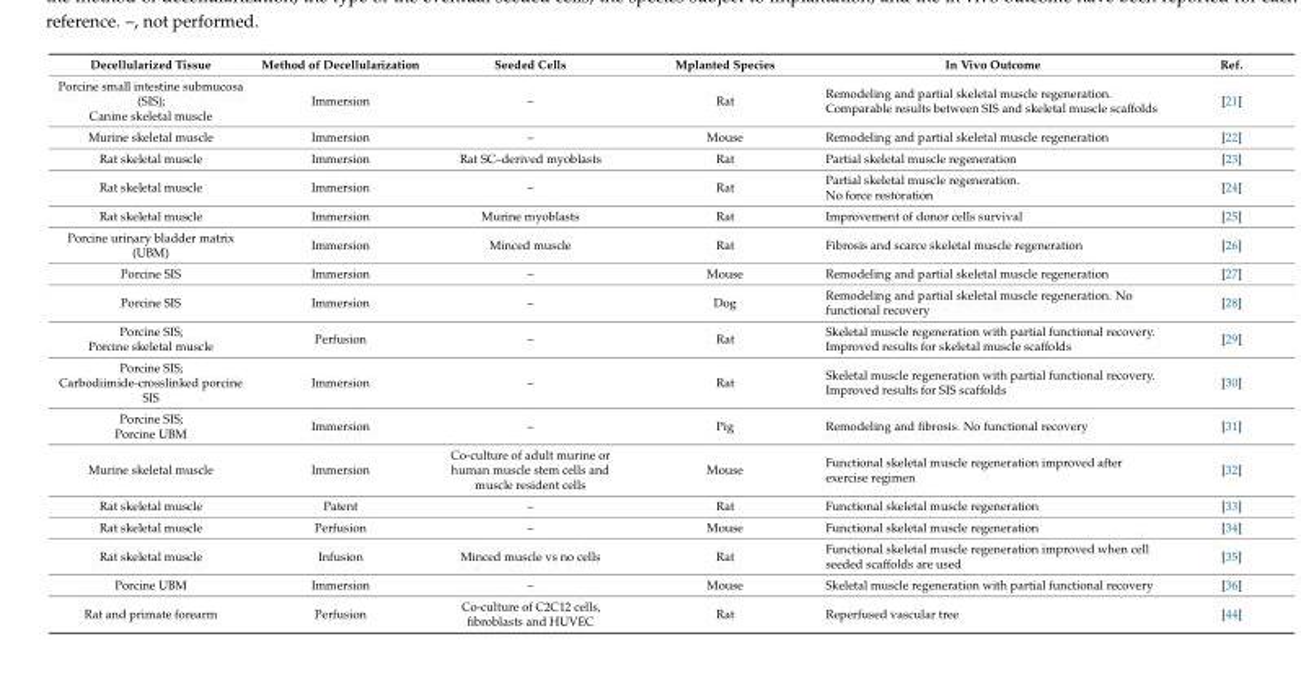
<table><thead><tr><td>Decellularized Tissue</td><td>Method of Decellularization</td><td>Seeded Cells</td><td>Mplanted Species</td><td>In Vivo Outcome</td><td>Ref.</td></tr></thead><tbody><tr><td>Porcine small intestine submucosa (SIS); Canine skeletal muscle</td><td>Immersion</td><td>–</td><td>Rat</td><td>Remodeling and partial skeletal muscle regeneration. Comparable results between SIS and skeletal muscle scaffolds</td><td>[21]</td></tr><tr><td>Murine skeletal muscle</td><td>Immersion</td><td>–</td><td>Mouse</td><td>Remodeling and partial skeletal muscle regeneration</td><td>[22]</td></tr><tr><td>Rat skeletal muscle</td><td>Immersion</td><td>Rat SC–derived myoblasts</td><td>Rat</td><td>Partial skeletal muscle regeneration</td><td>[23]</td></tr><tr><td>Rat skeletal muscle</td><td>Immersion</td><td>–</td><td>Rat</td><td>Partial skeletal muscle regeneration. No force restoration</td><td>[24]</td></tr><tr><td>Rat skeletal muscle</td><td>Immersion</td><td>Murine myoblasts</td><td>Rat</td><td>Improvement of donor cells survival</td><td>[25]</td></tr><tr><td>Porcine urinary bladder matrix (UBM)</td><td>Immersion</td><td>Minced muscle</td><td>Rat</td><td>Fibrosis and scarce skeletal muscle regeneration</td><td>[26]</td></tr><tr><td>Porcine SIS</td><td>Immersion</td><td>–</td><td>Mouse</td><td>Remodeling and partial skeletal muscle regeneration</td><td>[27]</td></tr><tr><td>Porcine SIS</td><td>Immersion</td><td>–</td><td>Dog</td><td>Remodeling and partial skeletal muscle regeneration. No functional recovery</td><td>[28]</td></tr><tr><td>Porcine SIS; Porcine skeletal muscle</td><td>Perfusion</td><td>–</td><td>Rat</td><td>Skeletal muscle regeneration with partial functional recovery. Improved results for skeletal muscle scaffolds</td><td>[29]</td></tr><tr><td>Porcine SIS; Carbodiimide-crosslinked porcine SIS</td><td>Immersion</td><td>–</td><td>Rat</td><td>Skeletal muscle regeneration with partial functional recovery. Improved results for SIS scaffolds</td><td>[30]</td></tr><tr><td>Porcine SIS; Porcine UBM</td><td>Immersion</td><td>–</td><td>Pig</td><td>Remodeling and fibrosis. No functional recovery</td><td>[31]</td></tr><tr><td>Murine skeletal muscle</td><td>Immersion</td><td>Co-culture of adult murine or human muscle stem cells and muscle resident cells</td><td>Mouse</td><td>Functional skeletal muscle regeneration improved after exercise regimen</td><td>[32]</td></tr><tr><td>Rat skeletal muscle</td><td>Patent</td><td>–</td><td>Rat</td><td>Functional skeletal muscle regeneration</td><td>[33]</td></tr><tr><td>Rat skeletal muscle</td><td>Perfusion</td><td>–</td><td>Mouse</td><td>Functional skeletal muscle regeneration</td><td>[34]</td></tr><tr><td>Rat skeletal muscle</td><td>Infusion</td><td>Minced muscle vs no cells</td><td>Rat</td><td>Functional skeletal muscle regeneration improved when cell seeded scaffolds are used</td><td>[35]</td></tr><tr><td>Porcine UBM</td><td>Immersion</td><td>–</td><td>Mouse</td><td>Skeletal muscle regeneration with partial functional recovery</td><td>[36]</td></tr><tr><td>Rat and primate forearm</td><td>Perfusion</td><td>Co-culture of C2C12 cells, fibroblasts and HUVEC</td><td>Rat</td><td>Reperfused vascular tree</td><td>[44]</td></tr></tbody></table>